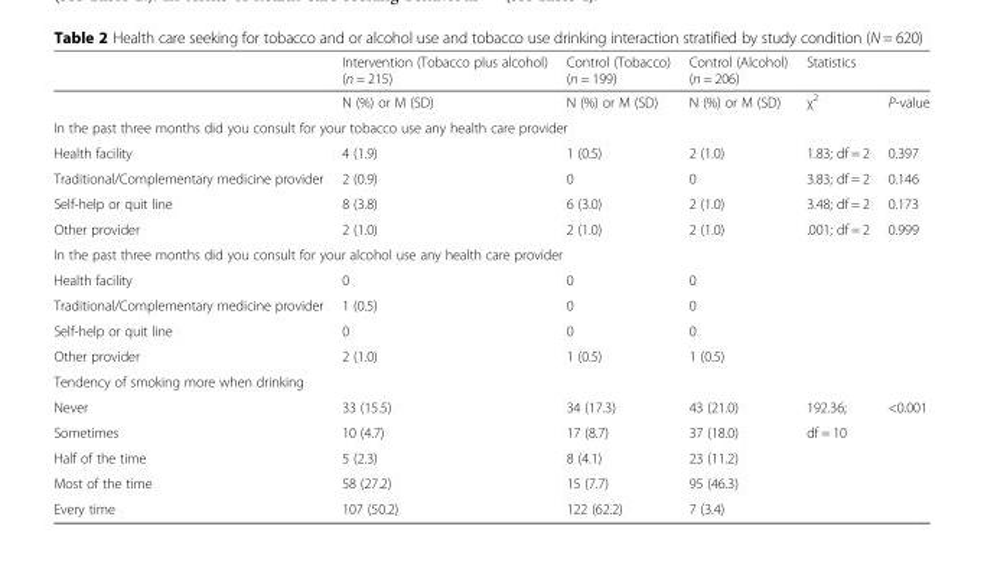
<table><thead><tr><td></td><td>Intervention (Tobacco plus alcohol) (n = 215)</td><td>Control (Tobacco) (n = 199)</td><td>Control (Alcohol) (n = 206)</td><td>Statistics</td><td></td></tr></thead><tbody><tr><td></td><td>N (%) or M (SD)</td><td>N (%) or M (SD)</td><td>N (%) or M (SD)</td><td>χ<sup>2</sup></td><td>P-value</td></tr><tr><td colspan="6">In the past three months did you consult for your tobacco use any health care provider</td></tr><tr><td>Health facility</td><td>4 (1.9)</td><td>1 (0.5)</td><td>2 (1.0)</td><td>1.83; df = 2</td><td>0.397</td></tr><tr><td>Traditional/Complementary medicine provider</td><td>2 (0.9)</td><td>0</td><td>0</td><td>3.83; df = 2</td><td>0.146</td></tr><tr><td>Self-help or quit line</td><td>8 (3.8)</td><td>6 (3.0)</td><td>2 (1.0)</td><td>3.48; df = 2</td><td>0.173</td></tr><tr><td>Other provider</td><td>2 (1.0)</td><td>2 (1.0)</td><td>2 (1.0)</td><td>.001; df = 2</td><td>0.999</td></tr><tr><td colspan="6">In the past three months did you consult for your alcohol use any health care provider</td></tr><tr><td>Health facility</td><td>0</td><td>0</td><td>0</td><td></td><td></td></tr><tr><td>Traditional/Complementary medicine provider</td><td>1 (0.5)</td><td>0</td><td>0</td><td></td><td></td></tr><tr><td>Self-help or quit line</td><td>0</td><td>0</td><td>0</td><td></td><td></td></tr><tr><td>Other provider</td><td>2 (1.0)</td><td>1 (0.5)</td><td>1 (0.5)</td><td></td><td></td></tr><tr><td colspan="6">Tendency of smoking more when drinking</td></tr><tr><td>Never</td><td>33 (15.5)</td><td>34 (17.3)</td><td>43 (21.0)</td><td>192.36;</td><td>&lt;0.001</td></tr><tr><td>Sometimes</td><td>10 (4.7)</td><td>17 (8.7)</td><td>37 (18.0)</td><td>df = 10</td><td></td></tr><tr><td>Half of the time</td><td>5 (2.3)</td><td>8 (4.1)</td><td>23 (11.2)</td><td></td><td></td></tr><tr><td>Most of the time</td><td>58 (27.2)</td><td>15 (7.7)</td><td>95 (46.3)</td><td></td><td></td></tr><tr><td>Every time</td><td>107 (50.2)</td><td>122 (62.2)</td><td>7 (3.4)</td><td></td><td></td></tr></tbody></table>